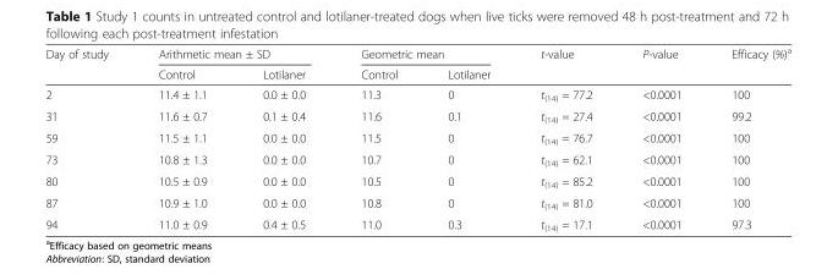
<table><thead><tr><td rowspan="2">Day of study</td><td colspan="2">Arithmetic mean ± SD</td><td colspan="2">Geometric mean</td><td rowspan="2">t-value</td><td rowspan="2">P-value</td><td rowspan="2">Efficacy (%)<sup>a</sup></td></tr><tr><td>Control</td><td>Lotilaner</td><td>Control</td><td>Lotilaner</td></tr></thead><tbody><tr><td>2</td><td>11.4 ± 1.1</td><td>0.0 ± 0.0</td><td>11.3</td><td>0</td><td>t<sub>(14)</sub> = 77.2</td><td>&lt;0.0001</td><td>100</td></tr><tr><td>31</td><td>11.6 ± 0.7</td><td>0.1 ± 0.4</td><td>11.6</td><td>0.1</td><td>t<sub>(14)</sub> = 27.4</td><td>&lt;0.0001</td><td>99.2</td></tr><tr><td>59</td><td>11.5 ± 1.1</td><td>0.0 ± 0.0</td><td>11.5</td><td>0</td><td>t<sub>(14)</sub> = 76.7</td><td>&lt;0.0001</td><td>100</td></tr><tr><td>73</td><td>10.8 ± 1.3</td><td>0.0 ± 0.0</td><td>10.7</td><td>0</td><td>t<sub>(14)</sub> = 62.1</td><td>&lt;0.0001</td><td>100</td></tr><tr><td>80</td><td>10.5 ± 0.9</td><td>0.0 ± 0.0</td><td>10.5</td><td>0</td><td>t<sub>(14)</sub> = 85.2</td><td>&lt;0.0001</td><td>100</td></tr><tr><td>87</td><td>10.9 ± 1.0</td><td>0.0 ± 0.0</td><td>10.8</td><td>0</td><td>t<sub>(14)</sub> = 81.0</td><td>&lt;0.0001</td><td>100</td></tr><tr><td>94</td><td>11.0 ± 0.9</td><td>0.4 ± 0.5</td><td>11.0</td><td>0.3</td><td>t<sub>(14)</sub> = 17.1</td><td>&lt;0.0001</td><td>97.3</td></tr></tbody></table>